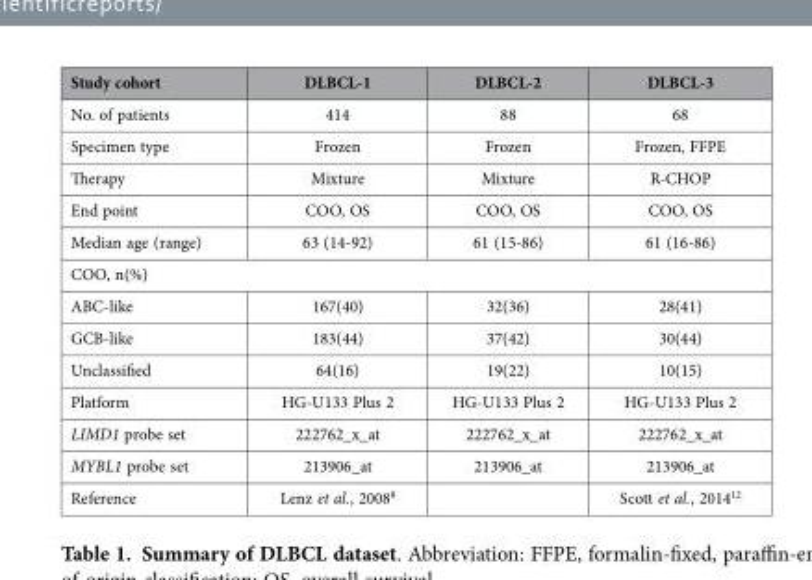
<table><thead><tr><td>Study cohort</td><td>DLBCL-1</td><td>DLBCL-2</td><td>DLBCL-3</td></tr></thead><tbody><tr><td>No. of patients</td><td>414</td><td>88</td><td>68</td></tr><tr><td>Specimen type</td><td>Frozen</td><td>Frozen</td><td>Frozen, FFPE</td></tr><tr><td>Therapy</td><td>Mixture</td><td>Mixture</td><td>R-CHOP</td></tr><tr><td>End point</td><td>COO, OS</td><td>COO, OS</td><td>COO, OS</td></tr><tr><td>Median age (range)</td><td>63 (14-92)</td><td>61 (15-86)</td><td>61 (16-86)</td></tr><tr><td colspan="4">COO, n(%)</td></tr><tr><td>ABC-like</td><td>167(40)</td><td>32(36)</td><td>28(41)</td></tr><tr><td>GCB-like</td><td>183(44)</td><td>37(42)</td><td>30(44)</td></tr><tr><td>Unclassified</td><td>64(16)</td><td>19(22)</td><td>10(15)</td></tr><tr><td>Platform</td><td>HG-U133 Plus 2</td><td>HG-U133 Plus 2</td><td>HG-U133 Plus 2</td></tr><tr><td>LIMD1 probe set</td><td>222762_x_at</td><td>222762_x_at</td><td>222762_x_at</td></tr><tr><td>MYBL1 probe set</td><td>213906_at</td><td>213906_at</td><td>213906_at</td></tr><tr><td>Reference</td><td>Lenz et al., 2008<sup>8</sup></td><td></td><td>Scott et al., 2014<sup>12</sup></td></tr></tbody></table>